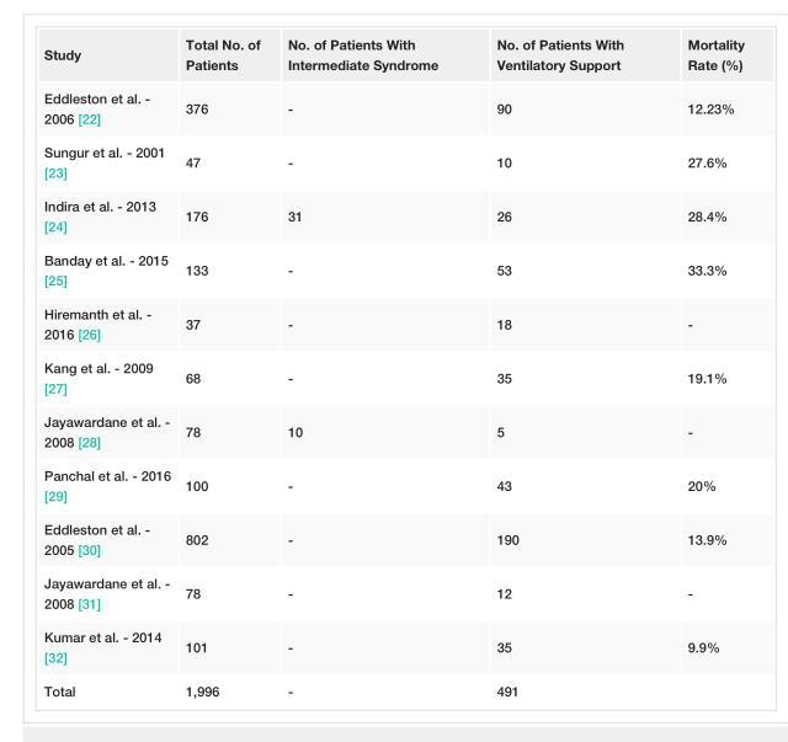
<table><tbody><tr><td>Study</td><td>Total No. of Patients</td><td>No. of Patients With Intermediate Syndrome</td><td>No. of Patients With Ventilatory Support</td><td>Mortality Rate (%)</td></tr><tr><td>Eddleston et al. - 2006 [22]</td><td>376</td><td>-</td><td>90</td><td>12.23%</td></tr><tr><td>Sungur et al. - 2001 [23]</td><td>47</td><td>-</td><td>10</td><td>27.6%</td></tr><tr><td>Indira et al. - 2013 [24]</td><td>176</td><td>31</td><td>26</td><td>28.4%</td></tr><tr><td>Banday et al. - 2015 [25]</td><td>133</td><td>-</td><td>53</td><td>33.3%</td></tr><tr><td>Hiremanth et al. - 2016 [26]</td><td>37</td><td>-</td><td>18</td><td>-</td></tr><tr><td>Kang et al. - 2009 [27]</td><td>68</td><td>-</td><td>35</td><td>19.1%</td></tr><tr><td>Jayawardane et al. - 2008 [28]</td><td>78</td><td>10</td><td>5</td><td>-</td></tr><tr><td>Panchal et al. - 2016 [29]</td><td>100</td><td>-</td><td>43</td><td>20%</td></tr><tr><td>Eddleston et al. - 2005 [30]</td><td>802</td><td>-</td><td>190</td><td>13.9%</td></tr><tr><td>Jayawardane et al. - 2008 [31]</td><td>78</td><td>-</td><td>12</td><td>-</td></tr><tr><td>Kumar et al. - 2014 [32]</td><td>101</td><td>-</td><td>35</td><td>9.9%</td></tr><tr><td>Total</td><td>1,996</td><td>-</td><td>491</td><td></td></tr></tbody></table>